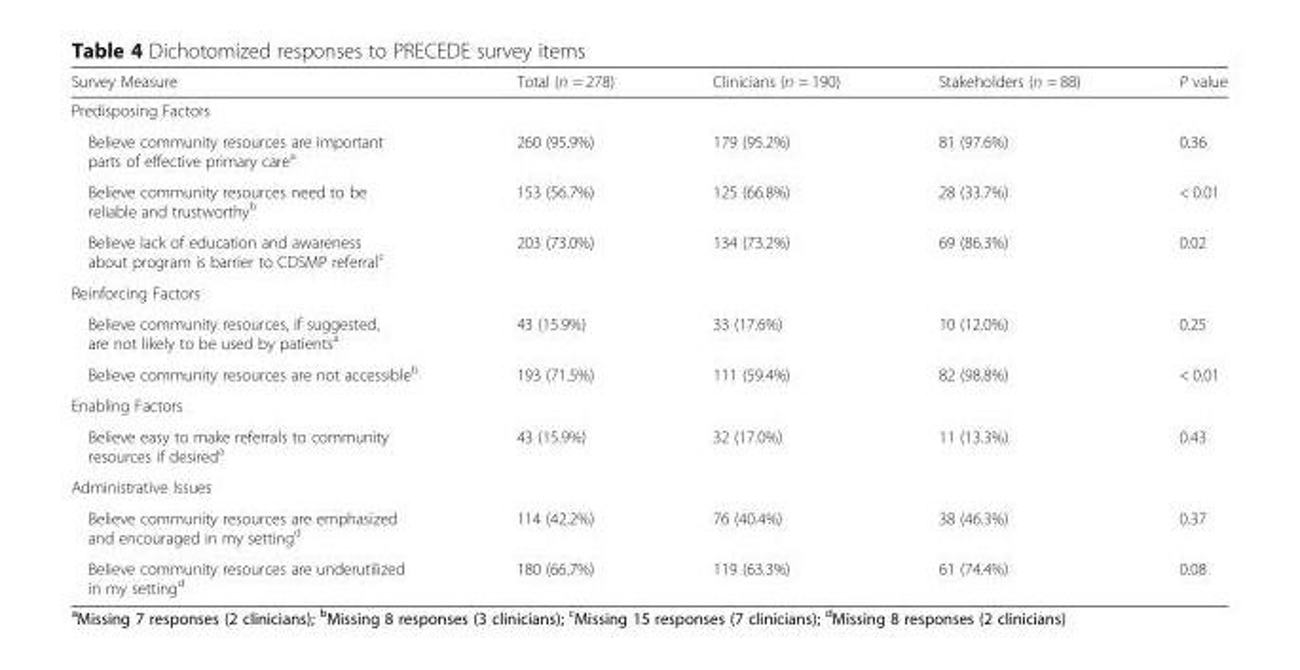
<table><thead><tr><td>Survey Measure</td><td>Total (n = 278)</td><td>Clinicians (n = 190)</td><td>Stakeholders (n = 88)</td><td>P value</td></tr></thead><tbody><tr><td colspan="5">Predisposing Factors</td></tr><tr><td>Believe community resources are important parts of effective primary care<sup>a</sup></td><td>260 (95.9%)</td><td>179 (95.2%)</td><td>81 (97.6%)</td><td>0.36</td></tr><tr><td>Believe community resources need to be reliable and trustworthy<sup>b</sup></td><td>153 (56.7%)</td><td>125 (66.8%)</td><td>28 (33.7%)</td><td>&lt; 0.01</td></tr><tr><td>Believe lack of education and awareness about program is barrier to CDSMP referral<sup>c</sup></td><td>203 (73.0%)</td><td>134 (73.2%)</td><td>69 (86.3%)</td><td>0.02</td></tr><tr><td colspan="5">Reinforcing Factors</td></tr><tr><td>Believe community resources, if suggested, are not likely to be used by patients<sup>a</sup></td><td>43 (15.9%)</td><td>33 (17.6%)</td><td>10 (12.0%)</td><td>0.25</td></tr><tr><td>Believe community resources are not accessible<sup>b</sup></td><td>193 (71.5%)</td><td>111 (59.4%)</td><td>82 (98.8%)</td><td>&lt; 0.01</td></tr><tr><td colspan="5">Enabling Factors</td></tr><tr><td>Believe easy to make referrals to community resources if desired<sup>a</sup></td><td>43 (15.9%)</td><td>32 (17.0%)</td><td>11 (13.3%)</td><td>0.43</td></tr><tr><td colspan="5">Administrative Issues</td></tr><tr><td>Believe community resources are emphasized and encouraged in my setting<sup>d</sup></td><td>114 (42.2%)</td><td>76 (40.4%)</td><td>38 (46.3%)</td><td>0.37</td></tr><tr><td>Believe community resources are underutilized in my setting<sup>d</sup></td><td>180 (66.7%)</td><td>119 (63.3%)</td><td>61 (74.4%)</td><td>0.08</td></tr></tbody></table>